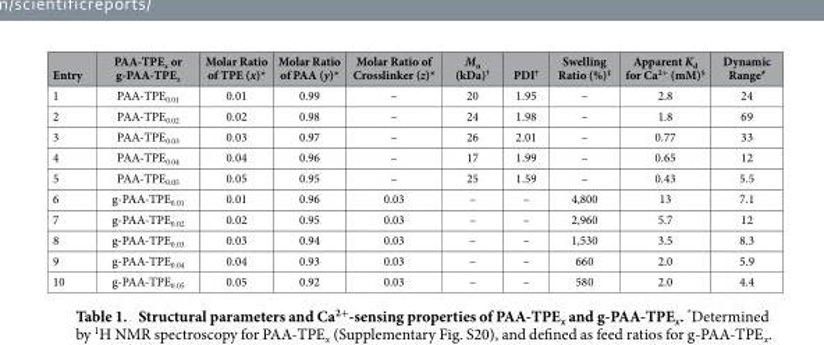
<table><thead><tr><td>Entry</td><td>PAA-TPE<sub>x</sub> or g-PAA-TPE<sub>x</sub></td><td>Molar Ratio of TPE (x)*</td><td>Molar Ratio of PAA (y)*</td><td>Molar Ratio of Crosslinker (z)*</td><td>M<sub>n</sub> (kDa)<sup>†</sup></td><td>PDI<sup>†</sup></td><td>Swelling Ratio (%)<sup>‡</sup></td><td>Apparent K<sub>d</sub> for Ca<sup>2+</sup> (mM)<sup>§</sup></td><td>Dynamic Range<sup>#</sup></td></tr></thead><tbody><tr><td>1</td><td>PAA-TPE<sub>0.01</sub></td><td>0.01</td><td>0.99</td><td>–</td><td>20</td><td>1.95</td><td>–</td><td>2.8</td><td>24</td></tr><tr><td>2</td><td>PAA-TPE<sub>0.02</sub></td><td>0.02</td><td>0.98</td><td>–</td><td>24</td><td>1.98</td><td>–</td><td>1.8</td><td>69</td></tr><tr><td>3</td><td>PAA-TPE<sub>0.03</sub></td><td>0.03</td><td>0.97</td><td>–</td><td>26</td><td>2.01</td><td>–</td><td>0.77</td><td>33</td></tr><tr><td>4</td><td>PAA-TPE<sub>0.04</sub></td><td>0.04</td><td>0.96</td><td>–</td><td>17</td><td>1.99</td><td>–</td><td>0.65</td><td>12</td></tr><tr><td>5</td><td>PAA-TPE<sub>0.05</sub></td><td>0.05</td><td>0.95</td><td>–</td><td>25</td><td>1.59</td><td>–</td><td>0.43</td><td>5.5</td></tr><tr><td>6</td><td>g-PAA-TPE<sub>0.01</sub></td><td>0.01</td><td>0.96</td><td>0.03</td><td>–</td><td>–</td><td>4,800</td><td>13</td><td>7.1</td></tr><tr><td>7</td><td>g-PAA-TPE<sub>0.02</sub></td><td>0.02</td><td>0.95</td><td>0.03</td><td>–</td><td>–</td><td>2,960</td><td>5.7</td><td>12</td></tr><tr><td>8</td><td>g-PAA-TPE<sub>0.03</sub></td><td>0.03</td><td>0.94</td><td>0.03</td><td>–</td><td>–</td><td>1,530</td><td>3.5</td><td>8.3</td></tr><tr><td>9</td><td>g-PAA-TPE<sub>0.04</sub></td><td>0.04</td><td>0.93</td><td>0.03</td><td>–</td><td>–</td><td>660</td><td>2.0</td><td>5.9</td></tr><tr><td>10</td><td>g-PAA-TPE<sub>0.05</sub></td><td>0.05</td><td>0.92</td><td>0.03</td><td>–</td><td>–</td><td>580</td><td>2.0</td><td>4.4</td></tr></tbody></table>